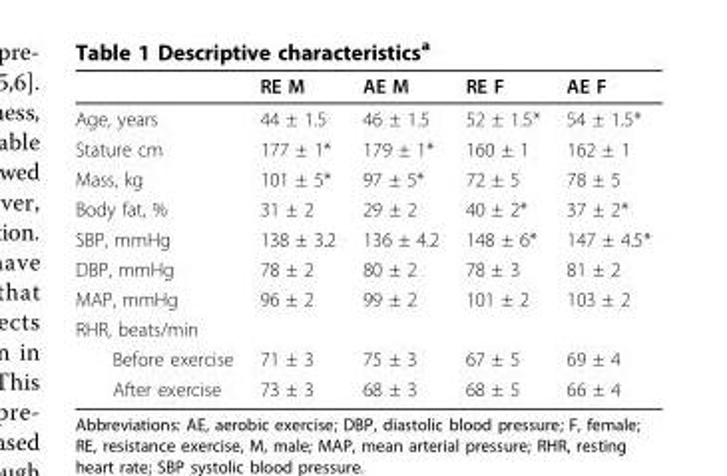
<table><thead><tr><td></td><td>RE M</td><td>AE M</td><td>RE F</td><td>AE F</td></tr></thead><tbody><tr><td>Age, years</td><td>44 ± 1.5</td><td>46 ± 1.5</td><td>52 ± 1.5*</td><td>54 ± 1.5*</td></tr><tr><td>Stature cm</td><td>177 ± 1*</td><td>179 ± 1*</td><td>160 ± 1</td><td>162 ± 1</td></tr><tr><td>Mass, kg</td><td>101 ± 5*</td><td>97 ± 5*</td><td>72 ± 5</td><td>78 ± 5</td></tr><tr><td>Body fat, %</td><td>31 ± 2</td><td>29 ± 2</td><td>40 ± 2*</td><td>37 ± 2*</td></tr><tr><td>SBP, mmHg</td><td>138 ± 3.2</td><td>136 ± 4.2</td><td>148 ± 6*</td><td>147 ± 4.5*</td></tr><tr><td>DBP, mmHg</td><td>78 ± 2</td><td>80 ± 2</td><td>78 ± 3</td><td>81 ± 2</td></tr><tr><td>MAP, mmHg</td><td>96 ± 2</td><td>99 ± 2</td><td>101 ± 2</td><td>103 ± 2</td></tr><tr><td colspan="5">RHR, beats/min</td></tr><tr><td>Before exercise</td><td>71 ± 3</td><td>75 ± 3</td><td>67 ± 5</td><td>69 ± 4</td></tr><tr><td>After exercise</td><td>73 ± 3</td><td>68 ± 3</td><td>68 ± 5</td><td>66 ± 4</td></tr></tbody></table>